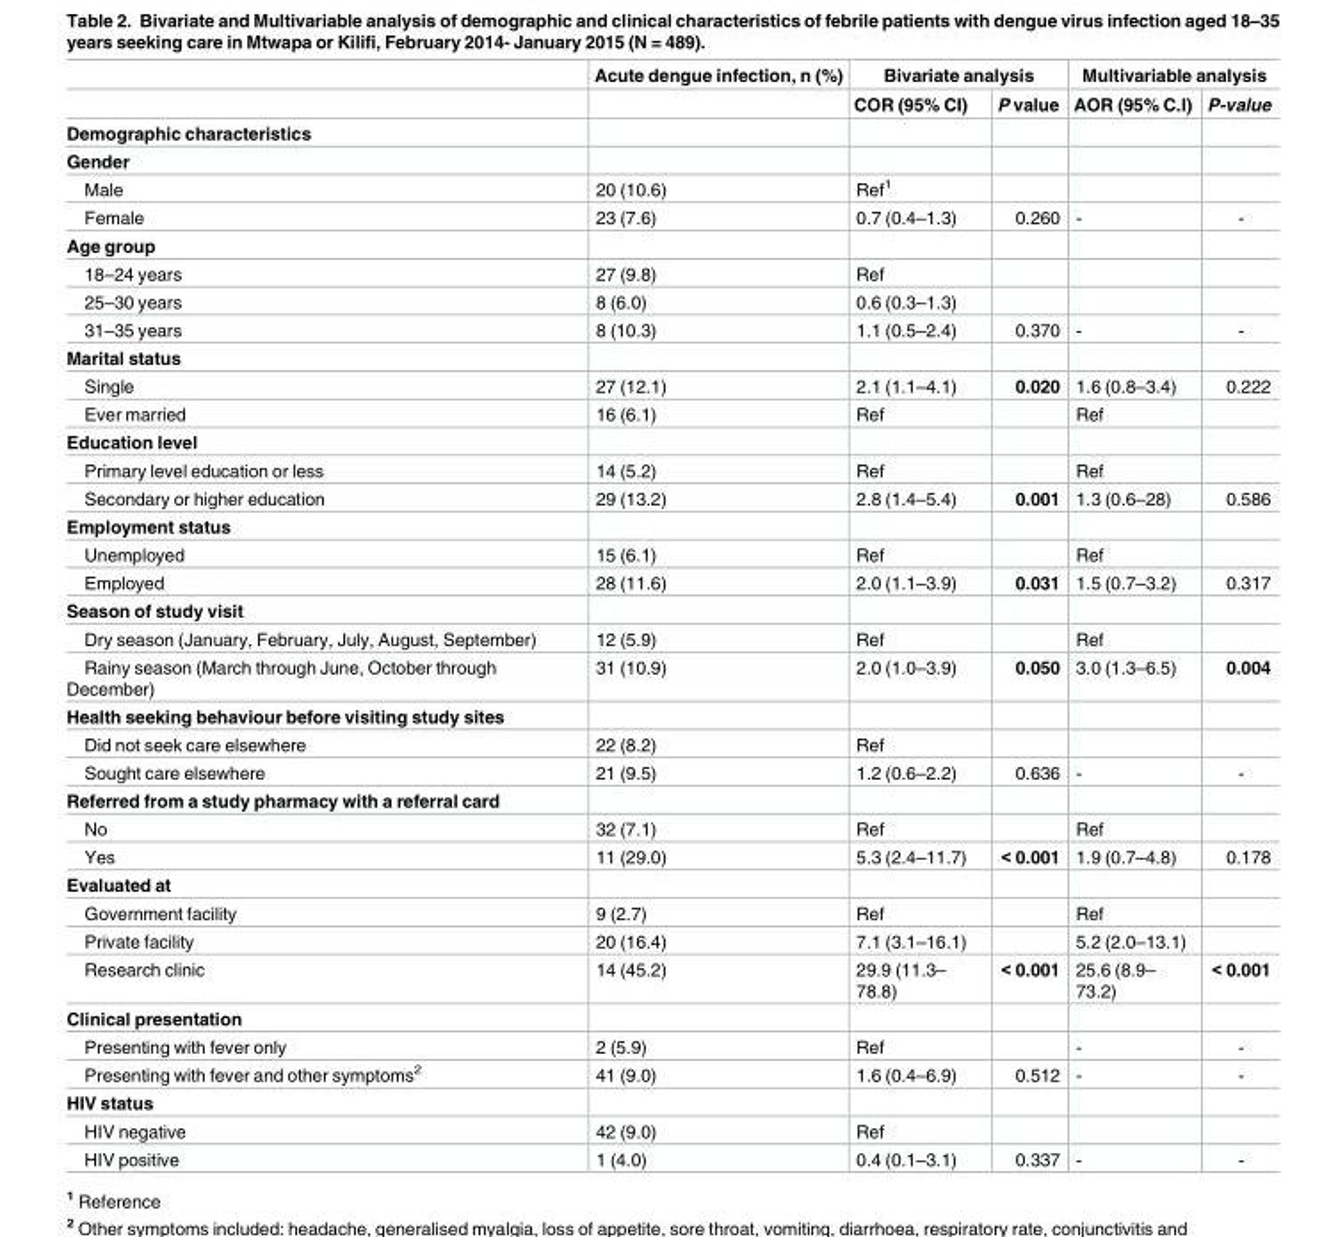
<table><thead><tr><td rowspan="2"></td><td rowspan="2">Acute dengue infection, n (%)</td><td colspan="2">Bivariate analysis</td><td colspan="2">Multivariable analysis</td></tr><tr><td>COR (95% CI)</td><td>P value</td><td>AOR (95% C.I)</td><td>P-value</td></tr></thead><tbody><tr><td colspan="6">Demographic characteristics</td></tr><tr><td colspan="6">Gender</td></tr><tr><td>Male</td><td>20 (10.6)</td><td>Ref<sup>1</sup></td><td></td><td></td><td></td></tr><tr><td>Female</td><td>23 (7.6)</td><td>0.7 (0.4–1.3)</td><td>0.260</td><td>-</td><td>-</td></tr><tr><td colspan="6">Age group</td></tr><tr><td>18–24 years</td><td>27 (9.8)</td><td>Ref</td><td></td><td></td><td></td></tr><tr><td>25–30 years</td><td>8 (6.0)</td><td>0.6 (0.3–1.3)</td><td></td><td></td><td></td></tr><tr><td>31–35 years</td><td>8 (10.3)</td><td>1.1 (0.5–2.4)</td><td>0.370</td><td>-</td><td>-</td></tr><tr><td colspan="6">Marital status</td></tr><tr><td>Single</td><td>27 (12.1)</td><td>2.1 (1.1–4.1)</td><td>0.020</td><td>1.6 (0.8–3.4)</td><td>0.222</td></tr><tr><td>Ever married</td><td>16 (6.1)</td><td>Ref</td><td></td><td>Ref</td><td></td></tr><tr><td colspan="6">Education level</td></tr><tr><td>Primary level education or less</td><td>14 (5.2)</td><td>Ref</td><td></td><td>Ref</td><td></td></tr><tr><td>Secondary or higher education</td><td>29 (13.2)</td><td>2.8 (1.4–5.4)</td><td>0.001</td><td>1.3 (0.6–28)</td><td>0.586</td></tr><tr><td colspan="6">Employment status</td></tr><tr><td>Unemployed</td><td>15 (6.1)</td><td>Ref</td><td></td><td>Ref</td><td></td></tr><tr><td>Employed</td><td>28 (11.6)</td><td>2.0 (1.1–3.9)</td><td>0.031</td><td>1.5 (0.7–3.2)</td><td>0.317</td></tr><tr><td colspan="6">Season of study visit</td></tr><tr><td>Dry season (January, February, July, August, September)</td><td>12 (5.9)</td><td>Ref</td><td></td><td>Ref</td><td></td></tr><tr><td>Rainy season (March through June, October through December)</td><td>31 (10.9)</td><td>2.0 (1.0–3.9)</td><td>0.050</td><td>3.0 (1.3–6.5)</td><td>0.004</td></tr><tr><td colspan="6">Health seeking behaviour before visiting study sites</td></tr><tr><td>Did not seek care elsewhere</td><td>22 (8.2)</td><td>Ref</td><td></td><td></td><td></td></tr><tr><td>Sought care elsewhere</td><td>21 (9.5)</td><td>1.2 (0.6–2.2)</td><td>0.636</td><td>-</td><td>-</td></tr><tr><td colspan="6">Referred from a study pharmacy with a referral card</td></tr><tr><td>No</td><td>32 (7.1)</td><td>Ref</td><td></td><td>Ref</td><td></td></tr><tr><td>Yes</td><td>11 (29.0)</td><td>5.3 (2.4–11.7)</td><td>&lt; 0.001</td><td>1.9 (0.7–4.8)</td><td>0.178</td></tr><tr><td colspan="6">Evaluated at</td></tr><tr><td>Government facility</td><td>9 (2.7)</td><td>Ref</td><td></td><td>Ref</td><td></td></tr><tr><td>Private facility</td><td>20 (16.4)</td><td>7.1 (3.1–16.1)</td><td></td><td>5.2 (2.0–13.1)</td><td></td></tr><tr><td>Research clinic</td><td>14 (45.2)</td><td>29.9 (11.3– 78.8)</td><td>&lt; 0.001</td><td>25.6 (8.9– 73.2)</td><td>&lt; 0.001</td></tr><tr><td colspan="6">Clinical presentation</td></tr><tr><td>Presenting with fever only</td><td>2 (5.9)</td><td>Ref</td><td></td><td>-</td><td>-</td></tr><tr><td>Presenting with fever and other symptoms<sup>2</sup></td><td>41 (9.0)</td><td>1.6 (0.4–6.9)</td><td>0.512</td><td>-</td><td>-</td></tr><tr><td colspan="6">HIV status</td></tr><tr><td>HIV negative</td><td>42 (9.0)</td><td>Ref</td><td></td><td></td><td></td></tr><tr><td>HIV positive</td><td>1 (4.0)</td><td>0.4 (0.1–3.1)</td><td>0.337</td><td>-</td><td>-</td></tr></tbody></table>